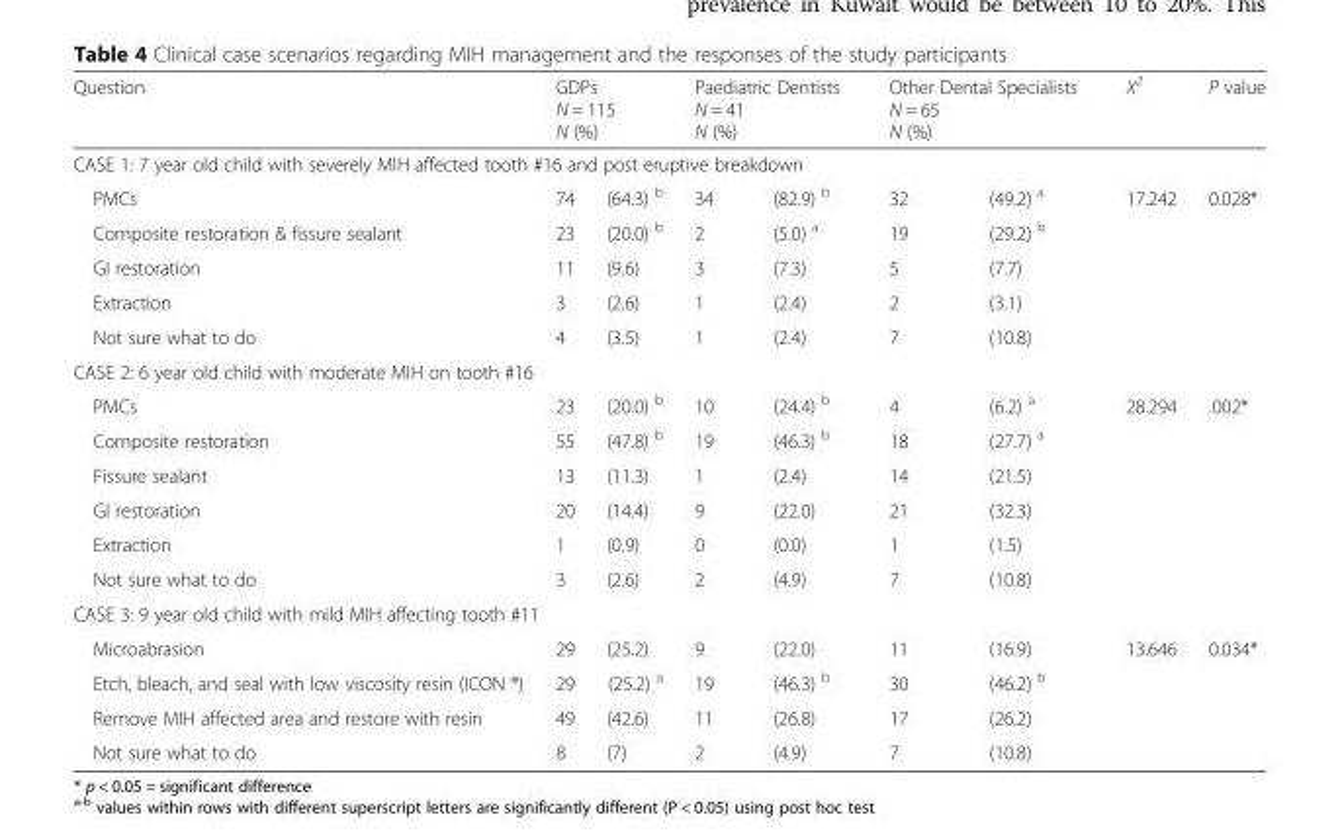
<table><thead><tr><td>Question</td><td colspan="2">GDPs N = 115 N (%)</td><td colspan="2">Paediatric Dentists N = 41 N (%)</td><td colspan="2">Other Dental Specialists N = 65 N (%)</td><td>X<sup>2</sup></td><td>P value</td></tr><tr><td colspan="9">CASE 1: 7 year old child with severely MIH affected tooth #16 and post eruptive breakdown</td></tr><tr><td>PMCs</td><td>74</td><td>(64.3) <sup>b</sup></td><td>34</td><td>(82.9) <sup>b</sup></td><td>32</td><td>(49.2) <sup>a</sup></td><td>17.242</td><td>0.028*</td></tr></thead><tbody><tr><td>Composite restoration &amp; fissure sealant</td><td>23</td><td>(20.0) <sup>b</sup></td><td>2</td><td>(5.0) <sup>a</sup></td><td>19</td><td>(29.2) <sup>b</sup></td><td></td><td></td></tr><tr><td>GI restoration</td><td>11</td><td>(9.6)</td><td>3</td><td>(7.3)</td><td>5</td><td>(7.7)</td><td></td><td></td></tr><tr><td>Extraction</td><td>3</td><td>(2.6)</td><td>1</td><td>(2.4)</td><td>2</td><td>(3.1)</td><td></td><td></td></tr><tr><td>Not sure what to do</td><td>4</td><td>(3.5)</td><td>1</td><td>(2.4)</td><td>7</td><td>(10.8)</td><td></td><td></td></tr><tr><td colspan="9">CASE 2: 6 year old child with moderate MIH on tooth #16</td></tr><tr><td>PMCs</td><td>23</td><td>(20.0) <sup>b</sup></td><td>10</td><td>(24.4) <sup>b</sup></td><td>4</td><td>(6.2) <sup>a</sup></td><td>28.294</td><td>.002*</td></tr><tr><td>Composite restoration</td><td>55</td><td>(47.8) <sup>b</sup></td><td>19</td><td>(46.3) <sup>b</sup></td><td>18</td><td>(27.7) <sup>a</sup></td><td></td><td></td></tr><tr><td>Fissure sealant</td><td>13</td><td>(11.3)</td><td>1</td><td>(2.4)</td><td>14</td><td>(21.5)</td><td></td><td></td></tr><tr><td>GI restoration</td><td>20</td><td>(14.4)</td><td>9</td><td>(22.0)</td><td>21</td><td>(32.3)</td><td></td><td></td></tr><tr><td>Extraction</td><td>1</td><td>(0.9)</td><td>0</td><td>(0.0)</td><td>1</td><td>(1.5)</td><td></td><td></td></tr><tr><td>Not sure what to do</td><td>3</td><td>(2.6)</td><td>2</td><td>(4.9)</td><td>7</td><td>(10.8)</td><td></td><td></td></tr><tr><td colspan="9">CASE 3: 9 year old child with mild MIH affecting tooth #11</td></tr><tr><td>Microabrasion</td><td>29</td><td>(25.2)</td><td>9</td><td>(22.0)</td><td>11</td><td>(16.9)</td><td>13.646</td><td>0.034*</td></tr><tr><td>Etch, bleach, and seal with low viscosity resin (ICON ®)</td><td>29</td><td>(25.2) <sup>a</sup></td><td>19</td><td>(46.3) <sup>b</sup></td><td>30</td><td>(46.2) <sup>b</sup></td><td></td><td></td></tr><tr><td>Remove MIH affected area and restore with resin</td><td>49</td><td>(42.6)</td><td>11</td><td>(26.8)</td><td>17</td><td>(26.2)</td><td></td><td></td></tr><tr><td>Not sure what to do</td><td>8</td><td>(7)</td><td>2</td><td>(4.9)</td><td>7</td><td>(10.8)</td><td></td><td></td></tr></tbody></table>